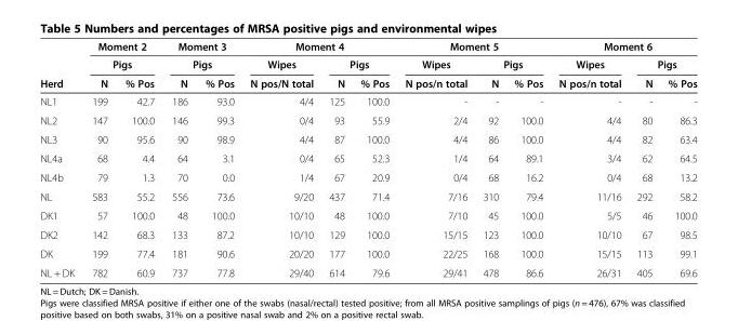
<table><thead><tr><td rowspan="3">Herd</td><td rowspan="2" colspan="2">Moment 2 Pigs</td><td rowspan="2" colspan="2">Moment 3 Pigs</td><td colspan="3">Moment 4</td><td colspan="3">Moment 5</td><td colspan="3">Moment 6</td></tr><tr><td rowspan="2">Wipes N pos/N total</td><td colspan="2">Pigs</td><td rowspan="2">Wipes N pos/n total</td><td colspan="2">Pigs</td><td rowspan="2">Wipes N pos/n total</td><td colspan="2">Pigs</td></tr><tr><td>N</td><td>% Pos</td><td>N</td><td>% Pos</td><td>N</td><td>% Pos</td><td>N</td><td>% Pos</td><td>N</td><td>% Pos</td></tr></thead><tbody><tr><td>NL1</td><td>199</td><td>42.7</td><td>186</td><td>93.0</td><td>4/4</td><td>125</td><td>100.0</td><td>-</td><td>-</td><td>-</td><td>-</td><td>-</td><td>-</td></tr><tr><td>NL2</td><td>147</td><td>100.0</td><td>146</td><td>99.3</td><td>0/4</td><td>93</td><td>55.9</td><td>2/4</td><td>92</td><td>100.0</td><td>4/4</td><td>80</td><td>86.3</td></tr><tr><td>NL3</td><td>90</td><td>95.6</td><td>90</td><td>98.9</td><td>4/4</td><td>87</td><td>100.0</td><td>4/4</td><td>86</td><td>100.0</td><td>4/4</td><td>82</td><td>63.4</td></tr><tr><td>NL4a</td><td>68</td><td>4.4</td><td>64</td><td>3.1</td><td>0/4</td><td>65</td><td>52.3</td><td>1/4</td><td>64</td><td>89.1</td><td>3/4</td><td>62</td><td>64.5</td></tr><tr><td>NL4b</td><td>79</td><td>1.3</td><td>70</td><td>0.0</td><td>1/4</td><td>67</td><td>20.9</td><td>0/4</td><td>68</td><td>16.2</td><td>0/4</td><td>68</td><td>13.2</td></tr><tr><td>NL</td><td>583</td><td>55.2</td><td>556</td><td>73.6</td><td>9/20</td><td>437</td><td>71.4</td><td>7/16</td><td>310</td><td>79.4</td><td>11/16</td><td>292</td><td>58.2</td></tr><tr><td>DK1</td><td>57</td><td>100.0</td><td>48</td><td>100.0</td><td>10/10</td><td>48</td><td>100.0</td><td>7/10</td><td>45</td><td>100.0</td><td>5/5</td><td>46</td><td>100.0</td></tr><tr><td>DK2</td><td>142</td><td>68.3</td><td>133</td><td>87.2</td><td>10/10</td><td>129</td><td>100.0</td><td>15/15</td><td>123</td><td>100.0</td><td>10/10</td><td>67</td><td>98.5</td></tr><tr><td>DK</td><td>199</td><td>77.4</td><td>181</td><td>90.6</td><td>20/20</td><td>177</td><td>100.0</td><td>22/25</td><td>168</td><td>100.0</td><td>15/15</td><td>113</td><td>99.1</td></tr><tr><td>NL + DK</td><td>782</td><td>60.9</td><td>737</td><td>77.8</td><td>29/40</td><td>614</td><td>79.6</td><td>29/41</td><td>478</td><td>86.6</td><td>26/31</td><td>405</td><td>69.6</td></tr></tbody></table>